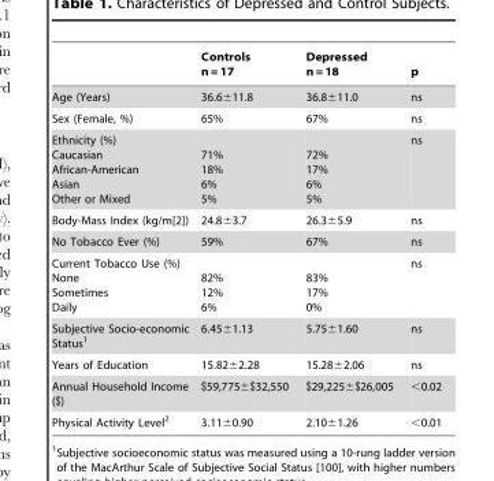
<table><thead><tr><td></td><td>Controls n = 17</td><td>Depressed n = 18</td><td>p</td></tr></thead><tbody><tr><td>Age (Years)</td><td>36.6±11.8</td><td>36.8±11.0</td><td>ns</td></tr><tr><td>Sex (Female, %)</td><td>65%</td><td>67%</td><td>ns</td></tr><tr><td>Ethnicity (%) Caucasian African-American Asian Other or Mixed</td><td>71% 18% 6% 5%</td><td>72% 17% 6% 5%</td><td>ns</td></tr><tr><td>Body-Mass Index (kg/m[2])</td><td>24.8±3.7</td><td>26.3±5.9</td><td>ns</td></tr><tr><td>No Tobacco Ever (%)</td><td>59%</td><td>67%</td><td>ns</td></tr><tr><td>Current Tobacco Use (%) None Sometimes Daily</td><td>82% 12% 6%</td><td>83% 17% 0%</td><td>ns</td></tr><tr><td>Subjective Socio-economic Status<sup>1</sup></td><td>6.45±1.13</td><td>5.75±1.60</td><td>ns</td></tr><tr><td>Years of Education</td><td>15.82±2.28</td><td>15.28±2.06</td><td>ns</td></tr><tr><td>Annual Household Income ($)</td><td>$59,775±$32,550</td><td>$29,225±$26,005</td><td>&lt;0.02</td></tr><tr><td>Physical Activity Level<sup>2</sup></td><td>3.11±0.90</td><td>2.10±1.26</td><td>&lt;0.01</td></tr></tbody></table>